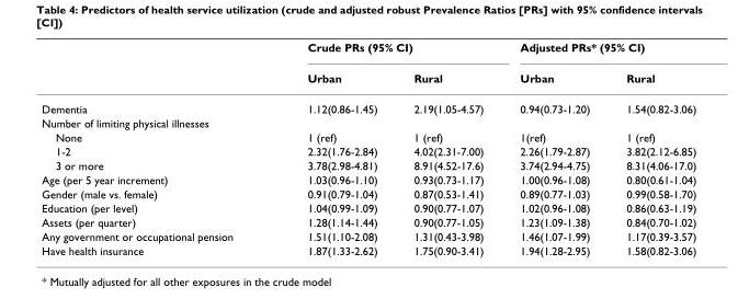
<table><thead><tr><td rowspan="2"></td><td colspan="2">Crude PRs (95% CI)</td><td colspan="2">Adjusted PRs* (95% CI)</td></tr><tr><td>Urban</td><td>Rural</td><td>Urban</td><td>Rural</td></tr></thead><tbody><tr><td>Dementia</td><td>1.12(0.86-1.45)</td><td>2.19(1.05-4.57)</td><td>0.94(0.73-1.20)</td><td>1.54(0.82-3.06)</td></tr><tr><td colspan="5">Number of limiting physical illnesses</td></tr><tr><td>None</td><td>1 (ref)</td><td>1 (ref)</td><td>1(ref)</td><td>1 (ref)</td></tr><tr><td>1-2</td><td>2.32(1.76-2.84)</td><td>4.02(2.31-7.00)</td><td>2.26(1.79-2.87)</td><td>3.82(2.12-6.85)</td></tr><tr><td>3 or more</td><td>3.78(2.98-4.81)</td><td>8.91(4.52-17.6)</td><td>3.74(2.94-4.75)</td><td>8.31(4.06-17.0)</td></tr><tr><td>Age (per 5 year increment)</td><td>1.03(0.96-1.10)</td><td>0.93(0.73-1.17)</td><td>1.00(0.96-1.08)</td><td>0.80(0.61-1.04)</td></tr><tr><td>Gender (male vs. female)</td><td>0.91(0.79-1.04)</td><td>0.87(0.53-1.41)</td><td>0.89(0.77-1.03)</td><td>0.99(0.58-1.70)</td></tr><tr><td>Education (per level)</td><td>1.04(0.99-1.09)</td><td>0.90(0.77-1.07)</td><td>1.02(0.96-1.08)</td><td>0.86(0.63-1.19)</td></tr><tr><td>Assets (per quarter)</td><td>1.28(1.14-1.44)</td><td>0.90(0.77-1.05)</td><td>1.23(1.09-1.38)</td><td>0.84(0.70-1.02)</td></tr><tr><td>Any government or occupational pension</td><td>1.51(1.10-2.08)</td><td>1.31(0.43-3.98)</td><td>1.46(1.07-1.99)</td><td>1.17(0.39-3.57)</td></tr><tr><td>Have health insurance</td><td>1.87(1.33-2.62)</td><td>1.75(0.90-3.41)</td><td>1.94(1.28-2.95)</td><td>1.58(0.82-3.06)</td></tr></tbody></table>